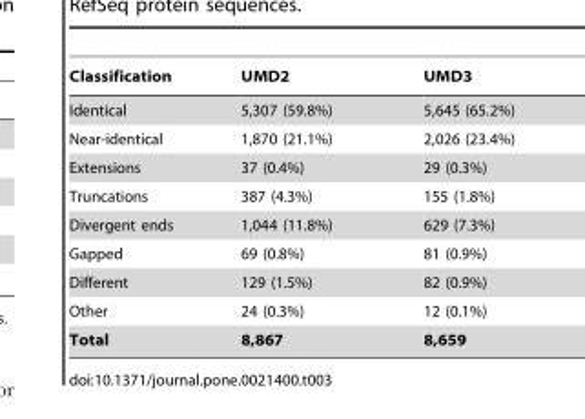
<table><thead><tr><td>Classification</td><td>UMD2</td><td>UMD3</td></tr></thead><tbody><tr><td>Identical</td><td>5,307 (59.8%)</td><td>5,645 (65.2%)</td></tr><tr><td>Near-identical</td><td>1,870 (21.1%)</td><td>2,026 (23.4%)</td></tr><tr><td>Extensions</td><td>37 (0.4%)</td><td>29 (0.3%)</td></tr><tr><td>Truncations</td><td>387 (4.3%)</td><td>155 (1.8%)</td></tr><tr><td>Divergent ends</td><td>1,044 (11.8%)</td><td>629 (7.3%)</td></tr><tr><td>Gapped</td><td>69 (0.8%)</td><td>81 (0.9%)</td></tr><tr><td>Different</td><td>129 (1.5%)</td><td>82 (0.9%)</td></tr><tr><td>Other</td><td>24 (0.3%)</td><td>12 (0.1%)</td></tr><tr><td>Total</td><td>8,867</td><td>8,659</td></tr></tbody></table>